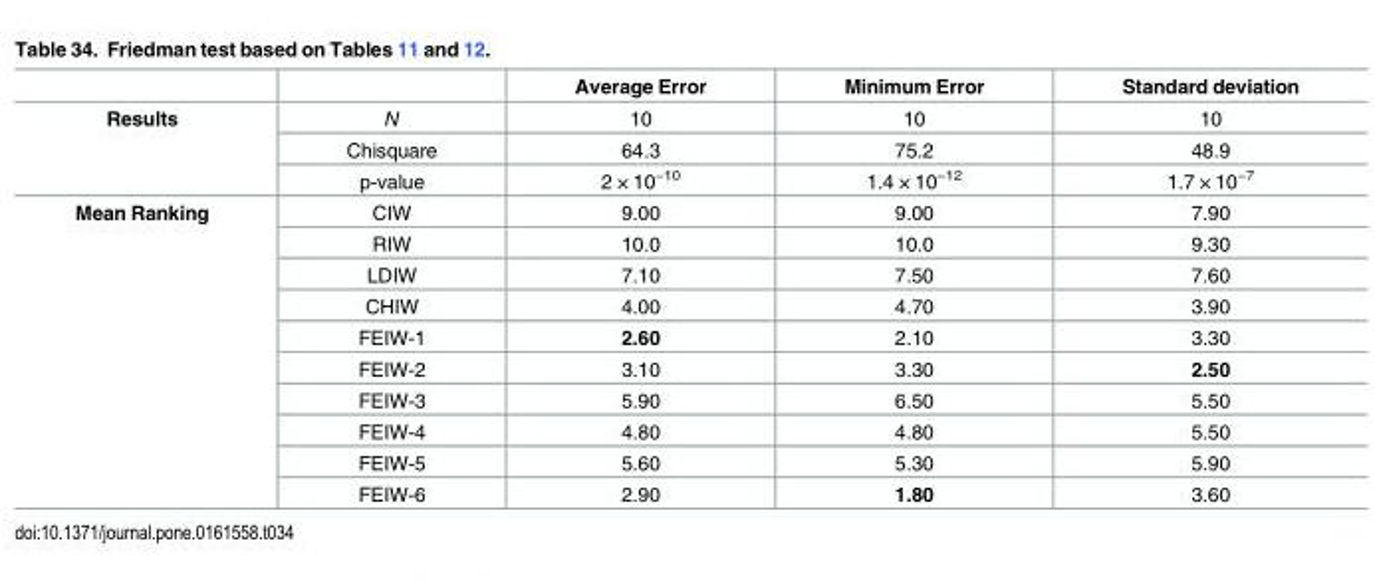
<table><thead><tr><td></td><td></td><td>Average Error</td><td>Minimum Error</td><td>Standard deviation</td></tr></thead><tbody><tr><td rowspan="3">Results</td><td>N</td><td>10</td><td>10</td><td>10</td></tr><tr><td>Chisquare</td><td>64.3</td><td>75.2</td><td>48.9</td></tr><tr><td>p-value</td><td>2 × 10<sup>−10</sup></td><td>1.4 × 10<sup>−12</sup></td><td>1.7 × 10<sup>−7</sup></td></tr><tr><td rowspan="10">Mean Ranking</td><td>CIW</td><td>9.00</td><td>9.00</td><td>7.90</td></tr><tr><td>RIW</td><td>10.0</td><td>10.0</td><td>9.30</td></tr><tr><td>LDIW</td><td>7.10</td><td>7.50</td><td>7.60</td></tr><tr><td>CHIW</td><td>4.00</td><td>4.70</td><td>3.90</td></tr><tr><td>FEIW-1</td><td>2.60</td><td>2.10</td><td>3.30</td></tr><tr><td>FEIW-2</td><td>3.10</td><td>3.30</td><td>2.50</td></tr><tr><td>FEIW-3</td><td>5.90</td><td>6.50</td><td>5.50</td></tr><tr><td>FEIW-4</td><td>4.80</td><td>4.80</td><td>5.50</td></tr><tr><td>FEIW-5</td><td>5.60</td><td>5.30</td><td>5.90</td></tr><tr><td>FEIW-6</td><td>2.90</td><td>1.80</td><td>3.60</td></tr></tbody></table>